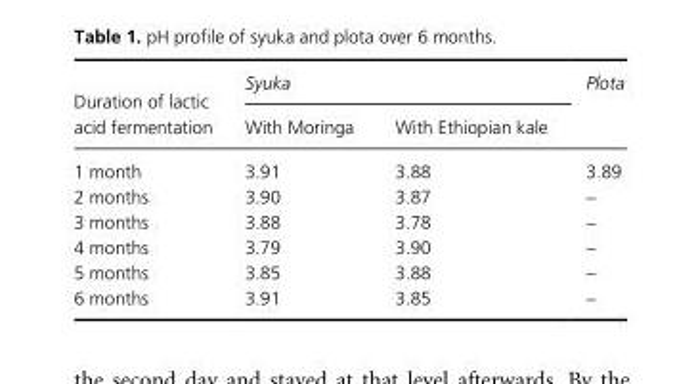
<table><thead><tr><td rowspan="2">Duration of lactic acid fermentation</td><td colspan="2">Syuka</td><td rowspan="2">Plota</td></tr><tr><td>With Moringa</td><td>With Ethiopian kale</td></tr></thead><tbody><tr><td>1 month</td><td>3.91</td><td>3.88</td><td>3.89</td></tr><tr><td>2 months</td><td>3.90</td><td>3.87</td><td>−</td></tr><tr><td>3 months</td><td>3.88</td><td>3.78</td><td>−</td></tr><tr><td>4 months</td><td>3.79</td><td>3.90</td><td>−</td></tr><tr><td>5 months</td><td>3.85</td><td>3.88</td><td>−</td></tr><tr><td>6 months</td><td>3.91</td><td>3.85</td><td>−</td></tr></tbody></table>